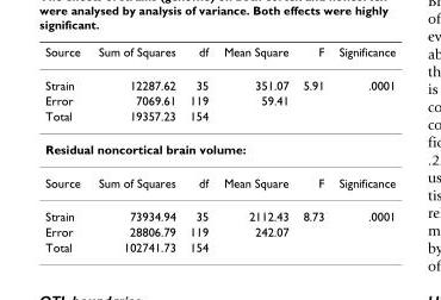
<table><thead><tr><td>Source</td><td>Sum of Squares</td><td>df</td><td>Mean Square</td><td>F</td><td>Significance</td></tr></thead><tbody><tr><td>Strain</td><td>12287.62</td><td>35</td><td>351.07</td><td>5.91</td><td>.0001</td></tr><tr><td>Error</td><td>7069.61</td><td>119</td><td>59.41</td><td></td><td></td></tr><tr><td>Total</td><td>19357.23</td><td>154</td><td></td><td></td><td></td></tr><tr><td colspan="6">Residual noncortical brain volume:</td></tr><tr><td>Source</td><td>Sum of Squares</td><td>df</td><td>Mean Square</td><td>F</td><td>Significance</td></tr><tr><td>Strain</td><td>73934.94</td><td>35</td><td>2112.43</td><td>8.73</td><td>.0001</td></tr><tr><td>Error</td><td>28806.79</td><td>119</td><td>242.07</td><td></td><td></td></tr><tr><td>Total</td><td>102741.73</td><td>154</td><td></td><td></td><td></td></tr></tbody></table>